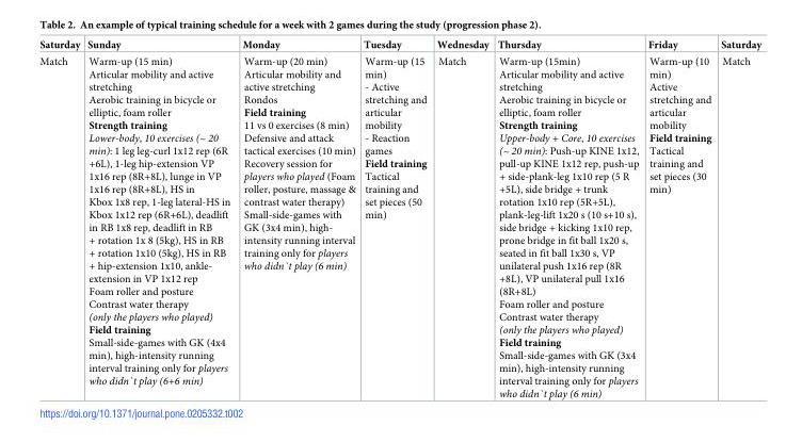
<table><thead><tr><td>Saturday</td><td>Sunday</td><td>Monday</td><td>Tuesday</td><td>Wednesday</td><td>Thursday</td><td>Friday</td><td>Saturday</td></tr></thead><tbody><tr><td>Match</td><td>Warm-up (15 min) Articular mobility and active stretching Aerobic training in bicycle or elliptic, foam roller Strength training Lower-body, 10 exercises (~ 20 min): 1 leg leg-curl 1x12 rep (6R +6L), 1-leg hip-extension VP 1x16 rep (8R+8L), lunge in VP 1x16 rep (8R+8L), HS in Kbox 1x8 rep, 1-leg lateral-HS in Kbox 1x12 rep (6R+6L), deadlift in RB 1x8 rep, deadlift in RB + rotation 1x 8 (5kg), HS in RB + rotation 1x10 (5kg), HS in RB + hip-extension 1x10, ankle- extension in VP 1x12 rep Foam roller and posture Contrast water therapy (only the players who played) Field training Small-side-games with GK (4x4 min), high-intensity running interval training only for players who didn`t play (6+6 min)</td><td>Warm-up (20 min) Articular mobility and active stretching Rondos Field training 11 vs 0 exercises (8 min) Defensive and attack tactical exercises (10 min) Recovery session for players who played (Foam roller, posture, massage &amp; contrast water therapy) Small-side-games with GK (3x4 min), high- intensity running interval training only for players who didn`t play (6 min)</td><td>Warm-up (15 min) - Active stretching and articular mobility - Reaction games Field training Tactical training and set pieces (50 min)</td><td>Match</td><td>Warm-up (15min) Articular mobility and active stretching Aerobic training in bicycle or elliptic, foam roller Strength training Upper-body + Core, 10 exercises (~ 20 min): Push-up KINE 1x12, pull-up KINE 1x12 rep, push-up + side-plank-leg 1x10 rep (5 R +5L), side bridge + trunk rotation 1x10 rep (5R+5L), plank-leg-lift 1x20 s (10 s+10 s), side bridge + kicking 1x10 rep, prone bridge in fit ball 1x20 s, seated in fit ball 1x30 s, VP unilateral push 1x16 rep (8R +8L), VP unilateral pull 1x16 (8R+8L) Foam roller and posture Contrast water therapy (only the players who played) Field training Small-side-games with GK (3x4 min), high-intensity running interval training only for players who didn`t play (6 min)</td><td>Warm-up (10 min) Active stretching and articular mobility Field training Tactical training and set pieces (30 min)</td><td>Match</td></tr></tbody></table>